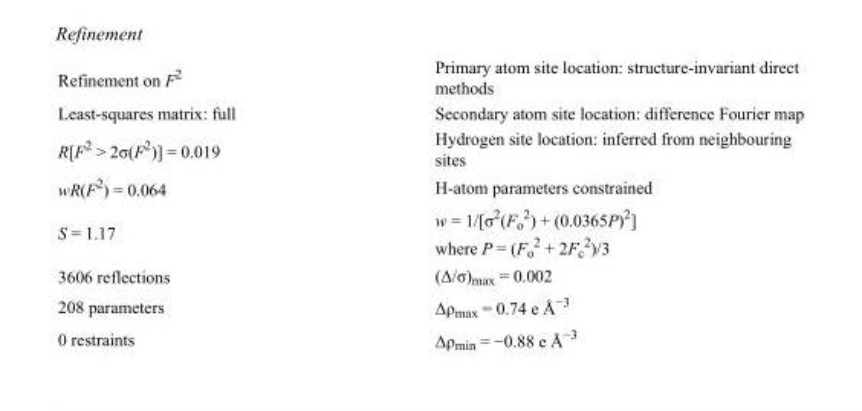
<table><tbody><tr><td>Refinement on F<sup>2</sup></td><td>Primary atom site location: structure-invariant direct methods</td></tr><tr><td>Least-squares matrix: full</td><td>Secondary atom site location: difference Fourier map</td></tr><tr><td>R[F<sup>2</sup> &gt; 2σ(F<sup>2</sup>)] = 0.019</td><td>Hydrogen site location: inferred from neighbouring sites</td></tr><tr><td>wR(F<sup>2</sup>) = 0.064</td><td>H-atom parameters constrained</td></tr><tr><td>S = 1.17</td><td>w = 1/[σ<sup>2</sup>(F<sub>o</sub> <sup>2</sup>) + (0.0365P)<sup>2</sup>] where P = (F<sub>o</sub> <sup>2</sup> + 2F<sub>c</sub> <sup>2</sup>)/3</td></tr><tr><td>3606 reflections</td><td>(Δ/σ)<sub>max</sub> = 0.002</td></tr><tr><td>208 parameters</td><td>Δρ<sub>max</sub> = 0.74 e Å<sup>−3</sup></td></tr><tr><td>0 restraints</td><td>Δρ<sub>min</sub> = −0.88 e Å<sup>−3</sup></td></tr></tbody></table>